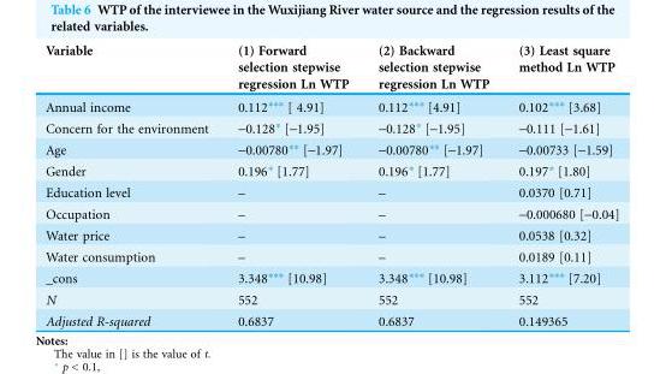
<table><thead><tr><td>Variable</td><td>(1) Forward selection stepwise regression Ln WTP</td><td>(2) Backward selection stepwise regression Ln WTP</td><td>(3) Least square method Ln WTP</td></tr></thead><tbody><tr><td>Annual income</td><td>0.112*** [ 4.91]</td><td>0.112*** [4.91]</td><td>0.102*** [3.68]</td></tr><tr><td>Concern for the environment</td><td>-0.128* [-1.95]</td><td>-0.128* [-1.95]</td><td>-0.111 [-1.61]</td></tr><tr><td>Age</td><td>-0.00780** [-1.97]</td><td>-0.00780** [-1.97]</td><td>-0.00733 [-1.59]</td></tr><tr><td>Gender</td><td>0.196* [1.77]</td><td>0.196* [1.77]</td><td>0.197* [1.80]</td></tr><tr><td>Education level</td><td>–</td><td>–</td><td>0.0370 [0.71]</td></tr><tr><td>Occupation</td><td>–</td><td>–</td><td>-0.000680 [-0.04]</td></tr><tr><td>Water price</td><td>–</td><td>–</td><td>0.0538 [0.32]</td></tr><tr><td>Water consumption</td><td>–</td><td>–</td><td>0.0189 [0.11]</td></tr><tr><td>_cons</td><td>3.348*** [10.98]</td><td>3.348*** [10.98]</td><td>3.112*** [7.20]</td></tr><tr><td>N</td><td>552</td><td>552</td><td>552</td></tr><tr><td>Adjusted R-squared</td><td>0.6837</td><td>0.6837</td><td>0.149365</td></tr></tbody></table>